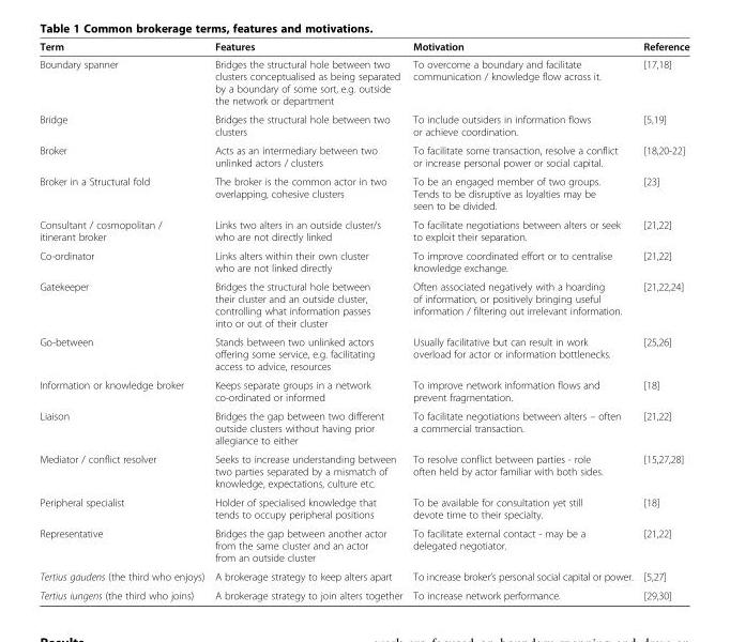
<table><thead><tr><td>Term</td><td>Features</td><td>Motivation</td><td>Reference</td></tr></thead><tbody><tr><td>Boundary spanner</td><td>Bridges the structural hole between two clusters conceptualised as being separated by a boundary of some sort, e.g. outside the network or department</td><td>To overcome a boundary and facilitate communication / knowledge flow across it.</td><td>[17,18]</td></tr><tr><td>Bridge</td><td>Bridges the structural hole between two clusters</td><td>To include outsiders in information flows or achieve coordination.</td><td>[5,19]</td></tr><tr><td>Broker</td><td>Acts as an intermediary between two unlinked actors / clusters</td><td>To facilitate some transaction, resolve a conflict or increase personal power or social capital.</td><td>[18,20-22]</td></tr><tr><td>Broker in a Structural fold</td><td>The broker is the common actor in two overlapping, cohesive clusters</td><td>To be an engaged member of two groups. Tends to be disruptive as loyalties may be seen to be divided.</td><td>[23]</td></tr><tr><td>Consultant / cosmopolitan / itinerant broker</td><td>Links two alters in an outside cluster/s who are not directly linked</td><td>To facilitate negotiations between alters or seek to exploit their separation.</td><td>[21,22]</td></tr><tr><td>Co-ordinator</td><td>Links alters within their own cluster who are not linked directly</td><td>To improve coordinated effort or to centralise knowledge exchange.</td><td>[21,22]</td></tr><tr><td>Gatekeeper</td><td>Bridges the structural hole between their cluster and an outside cluster, controlling what information passes into or out of their cluster</td><td>Often associated negatively with a hoarding of information, or positively bringing useful information / filtering out irrelevant information.</td><td>[21,22,24]</td></tr><tr><td>Go-between</td><td>Stands between two unlinked actors offering some service, e.g. facilitating access to advice, resources</td><td>Usually facilitative but can result in work overload for actor or information bottlenecks.</td><td>[25,26]</td></tr><tr><td>Information or knowledge broker</td><td>Keeps separate groups in a network co-ordinated or informed</td><td>To improve network information flows and prevent fragmentation.</td><td>[18]</td></tr><tr><td>Liaison</td><td>Bridges the gap between two different outside clusters without having prior allegiance to either</td><td>To facilitate negotiations between alters – often a commercial transaction.</td><td>[21,22]</td></tr><tr><td>Mediator / conflict resolver</td><td>Seeks to increase understanding between two parties separated by a mismatch of knowledge, expectations, culture etc.</td><td>To resolve conflict between parties - role often held by actor familiar with both sides.</td><td>[15,27,28]</td></tr><tr><td>Peripheral specialist</td><td>Holder of specialised knowledge that tends to occupy peripheral positions</td><td>To be available for consultation yet still devote time to their specialty.</td><td>[18]</td></tr><tr><td>Representative</td><td>Bridges the gap between another actor from the same cluster and an actor from an outside cluster</td><td>To facilitate external contact - may be a delegated negotiator.</td><td>[21,22]</td></tr><tr><td>Tertius gaudens (the third who enjoys)</td><td>A brokerage strategy to keep alters apart</td><td>To increase broker’s personal social capital or power.</td><td>[5,27]</td></tr><tr><td>Tertius iungens (the third who joins)</td><td>A brokerage strategy to join alters together</td><td>To increase network performance.</td><td>[29,30]</td></tr></tbody></table>